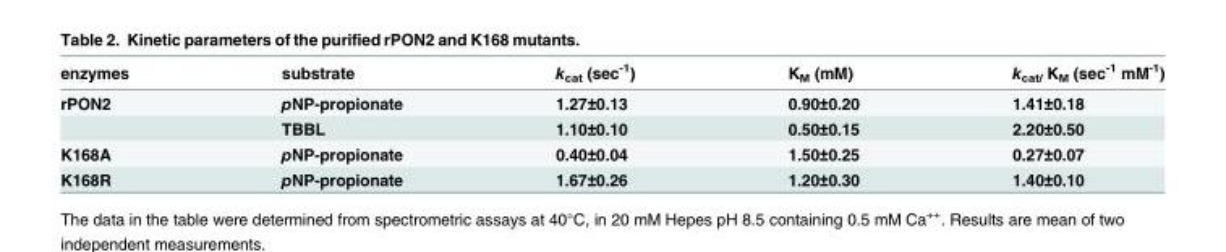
<table><thead><tr><td>enzymes</td><td>substrate</td><td>k<sub>cat</sub> (sec<sup>-1</sup>)</td><td>K<sub>M</sub> (mM)</td><td>k<sub>cat/</sub> K<sub>M</sub> (sec<sup>-1</sup> mM<sup>-1</sup>)</td></tr></thead><tbody><tr><td rowspan="2">rPON2</td><td>pNP-propionate</td><td>1.27±0.13</td><td>0.90±0.20</td><td>1.41±0.18</td></tr><tr><td>TBBL</td><td>1.10±0.10</td><td>0.50±0.15</td><td>2.20±0.50</td></tr><tr><td>K168A</td><td>pNP-propionate</td><td>0.40±0.04</td><td>1.50±0.25</td><td>0.27±0.07</td></tr><tr><td>K168R</td><td>pNP-propionate</td><td>1.67±0.26</td><td>1.20±0.30</td><td>1.40±0.10</td></tr></tbody></table>